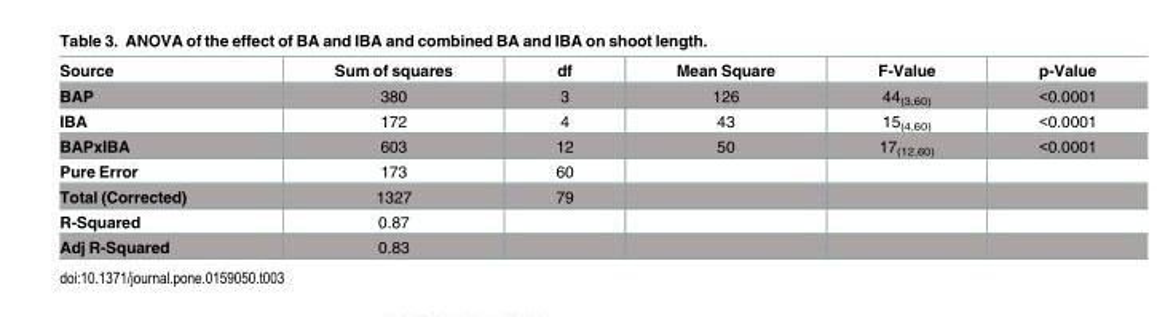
<table><thead><tr><td>Source</td><td>Sum of squares</td><td>df</td><td>Mean Square</td><td>F-Value</td><td>p-Value</td></tr></thead><tbody><tr><td>BAP</td><td>380</td><td>3</td><td>126</td><td>44<sub>(3,60)</sub></td><td>&lt;0.0001</td></tr><tr><td>IBA</td><td>172</td><td>4</td><td>43</td><td>15<sub>(4,60)</sub></td><td>&lt;0.0001</td></tr><tr><td>BAPxIBA</td><td>603</td><td>12</td><td>50</td><td>17<sub>(12,60)</sub></td><td>&lt;0.0001</td></tr><tr><td>Pure Error</td><td>173</td><td>60</td><td></td><td></td><td></td></tr><tr><td>Total (Corrected)</td><td>1327</td><td>79</td><td></td><td></td><td></td></tr><tr><td>R-Squared</td><td>0.87</td><td></td><td></td><td></td><td></td></tr><tr><td>Adj R-Squared</td><td>0.83</td><td></td><td></td><td></td><td></td></tr></tbody></table>